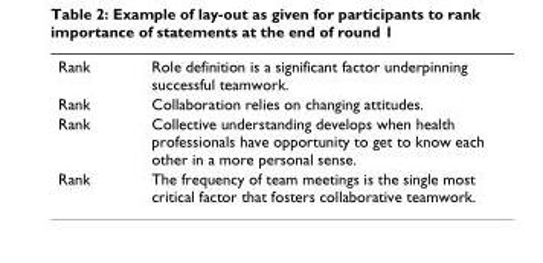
<table><tbody><tr><td>Rank</td><td>Role definition is a significant factor underpinning successful teamwork.</td></tr><tr><td>Rank</td><td>Collaboration relies on changing attitudes.</td></tr><tr><td>Rank</td><td>Collective understanding develops when health professionals have opportunity to get to know each other in a more personal sense.</td></tr><tr><td>Rank</td><td>The frequency of team meetings is the single most critical factor that fosters collaborative teamwork.</td></tr></tbody></table>